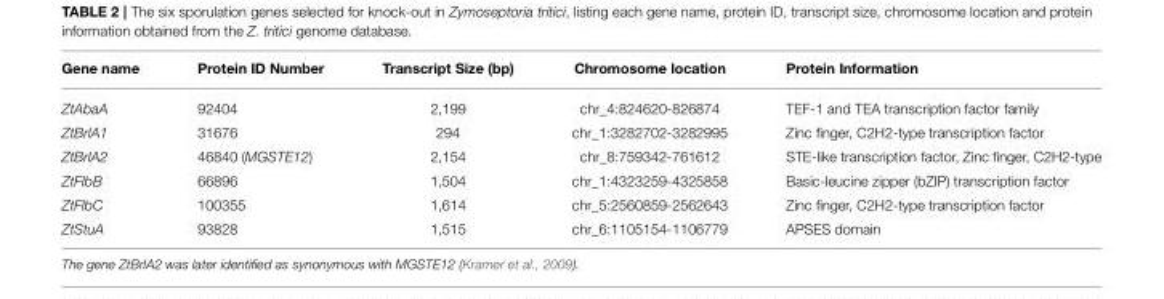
<table><thead><tr><td>Gene name</td><td>Protein ID Number</td><td>Transcript Size (bp)</td><td>Chromosome location</td><td>Protein Information</td></tr></thead><tbody><tr><td>ZtAbaA</td><td>92404</td><td>2,199</td><td>chr_4:824620-826874</td><td>TEF-1 and TEA transcription factor family</td></tr><tr><td>ZtBrlA1</td><td>31676</td><td>294</td><td>chr_1:3282702-3282995</td><td>Zinc finger, C2H2-type transcription factor</td></tr><tr><td>ZtBrlA2</td><td>46840 (MGSTE12)</td><td>2,154</td><td>chr_8:759342-761612</td><td>STE-like transcription factor, Zinc finger, C2H2-type</td></tr><tr><td>ZtFlbB</td><td>66896</td><td>1,504</td><td>chr_1:4323259-4325858</td><td>Basic-leucine zipper (bZIP) transcription factor</td></tr><tr><td>ZtFlbC</td><td>100355</td><td>1,614</td><td>chr_5:2560859-2562643</td><td>Zinc finger, C2H2-type transcription factor</td></tr><tr><td>ZtStuA</td><td>93828</td><td>1,515</td><td>chr_6:1105154-1106779</td><td>APSES domain</td></tr></tbody></table>